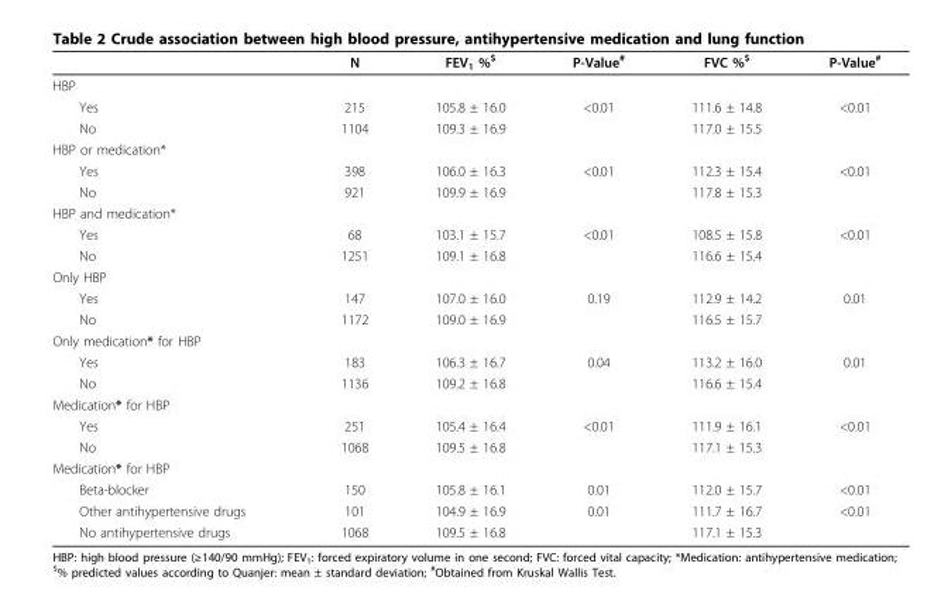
<table><thead><tr><td></td><td>N</td><td>FEV<sub>1</sub> %<sup>$</sup></td><td>P-Value<sup>#</sup></td><td>FVC %<sup>$</sup></td><td>P-Value<sup>#</sup></td></tr></thead><tbody><tr><td colspan="6">HBP</td></tr><tr><td>Yes</td><td>215</td><td>105.8 ± 16.0</td><td>&lt;0.01</td><td>111.6 ± 14.8</td><td>&lt;0.01</td></tr><tr><td>No</td><td>1104</td><td>109.3 ± 16.9</td><td></td><td>117.0 ± 15.5</td><td></td></tr><tr><td colspan="6">HBP or medication*</td></tr><tr><td>Yes</td><td>398</td><td>106.0 ± 16.3</td><td>&lt;0.01</td><td>112.3 ± 15.4</td><td>&lt;0.01</td></tr><tr><td>No</td><td>921</td><td>109.9 ± 16.9</td><td></td><td>117.8 ± 15.3</td><td></td></tr><tr><td colspan="6">HBP and medication*</td></tr><tr><td>Yes</td><td>68</td><td>103.1 ± 15.7</td><td>&lt;0.01</td><td>108.5 ± 15.8</td><td>&lt;0.01</td></tr><tr><td>No</td><td>1251</td><td>109.1 ± 16.8</td><td></td><td>116.6 ± 15.4</td><td></td></tr><tr><td colspan="6">Only HBP</td></tr><tr><td>Yes</td><td>147</td><td>107.0 ± 16.0</td><td>0.19</td><td>112.9 ± 14.2</td><td>0.01</td></tr><tr><td>No</td><td>1172</td><td>109.0 ± 16.9</td><td></td><td>116.5 ± 15.7</td><td></td></tr><tr><td colspan="6">Only medication* for HBP</td></tr><tr><td>Yes</td><td>183</td><td>106.3 ± 16.7</td><td>0.04</td><td>113.2 ± 16.0</td><td>0.01</td></tr><tr><td>No</td><td>1136</td><td>109.2 ± 16.8</td><td></td><td>116.6 ± 15.4</td><td></td></tr><tr><td colspan="6">Medication* for HBP</td></tr><tr><td>Yes</td><td>251</td><td>105.4 ± 16.4</td><td>&lt;0.01</td><td>111.9 ± 16.1</td><td>&lt;0.01</td></tr><tr><td>No</td><td>1068</td><td>109.5 ± 16.8</td><td></td><td>117.1 ± 15.3</td><td></td></tr><tr><td colspan="6">Medication* for HBP</td></tr><tr><td>Beta-blocker</td><td>150</td><td>105.8 ± 16.1</td><td>0.01</td><td>112.0 ± 15.7</td><td>&lt;0.01</td></tr><tr><td>Other antihypertensive drugs</td><td>101</td><td>104.9 ± 16.9</td><td>0.01</td><td>111.7 ± 16.7</td><td>&lt;0.01</td></tr><tr><td>No antihypertensive drugs</td><td>1068</td><td>109.5 ± 16.8</td><td></td><td>117.1 ± 15.3</td><td></td></tr></tbody></table>